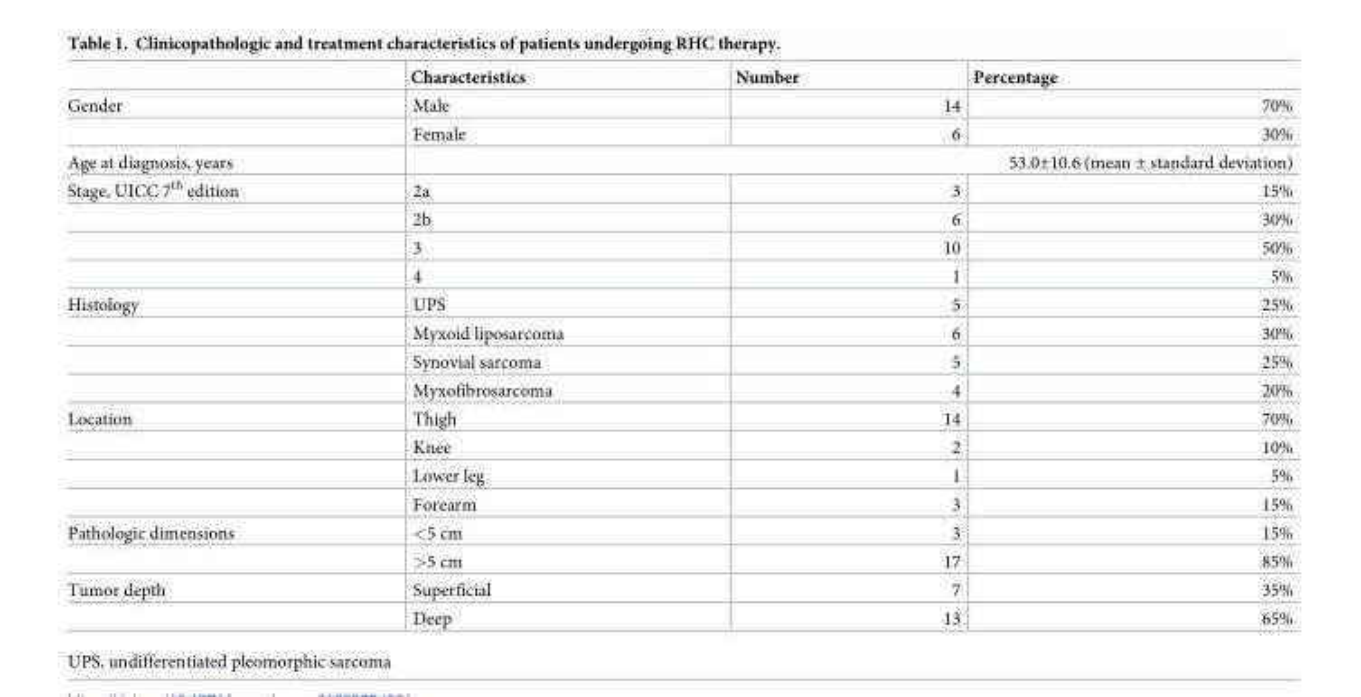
<table><thead><tr><td></td><td>Characteristics</td><td>Number</td><td>Percentage</td></tr></thead><tbody><tr><td rowspan="2">Gender</td><td>Male</td><td>14</td><td>70%</td></tr><tr><td>Female</td><td>6</td><td>30%</td></tr><tr><td>Age at diagnosis, years</td><td colspan="3">53.0±10.6 (mean ± standard deviation)</td></tr><tr><td rowspan="4">Stage, UICC 7<sup>th</sup> edition</td><td>2a</td><td>3</td><td>15%</td></tr><tr><td>2b</td><td>6</td><td>30%</td></tr><tr><td>3</td><td>10</td><td>50%</td></tr><tr><td>4</td><td>1</td><td>5%</td></tr><tr><td rowspan="4">Histology</td><td>UPS</td><td>5</td><td>25%</td></tr><tr><td>Myxoid liposarcoma</td><td>6</td><td>30%</td></tr><tr><td>Synovial sarcoma</td><td>5</td><td>25%</td></tr><tr><td>Myxofibrosarcoma</td><td>4</td><td>20%</td></tr><tr><td rowspan="4">Location</td><td>Thigh</td><td>14</td><td>70%</td></tr><tr><td>Knee</td><td>2</td><td>10%</td></tr><tr><td>Lower leg</td><td>1</td><td>5%</td></tr><tr><td>Forearm</td><td>3</td><td>15%</td></tr><tr><td rowspan="2">Pathologic dimensions</td><td>&lt;5 cm</td><td>3</td><td>15%</td></tr><tr><td>&gt;5 cm</td><td>17</td><td>85%</td></tr><tr><td rowspan="2">Tumor depth</td><td>Superficial</td><td>7</td><td>35%</td></tr><tr><td>Deep</td><td>13</td><td>65%</td></tr></tbody></table>